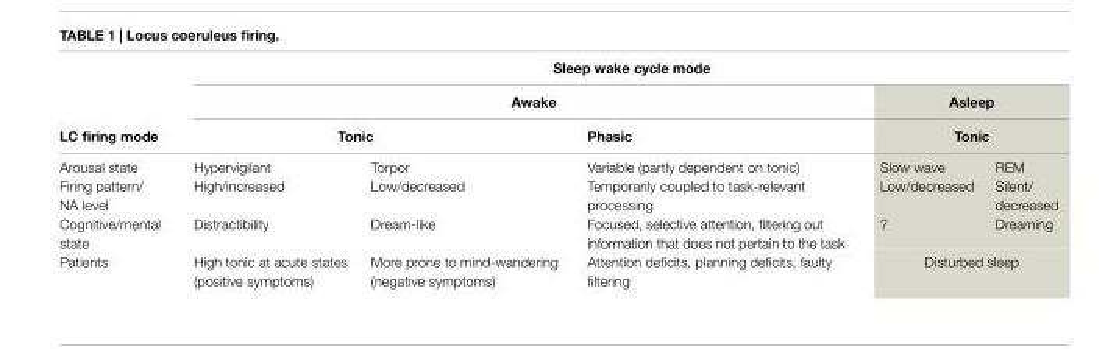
<table><thead><tr><td rowspan="4">lC firing mode Arousal state</td><td colspan="5">sleep wake cycle mode</td></tr><tr><td colspan="3">awake</td><td rowspan="2" colspan="2">asleep tonic</td></tr><tr><td colspan="2">tonic</td><td rowspan="2">phasic Variable (partly dependent on tonic)</td></tr><tr><td>Hypervigilant</td><td>Torpor</td><td>Slow wave</td><td>REM</td></tr></thead><tbody><tr><td>Firing pattern/ NA level</td><td>High/increased</td><td>Low/decreased</td><td>Temporarily coupled to task-relevant processing</td><td>Low/decreased</td><td>Silent/ decreased</td></tr><tr><td>Cognitive/mental state</td><td>Distractibility</td><td>Dream-like</td><td>Focused, selective attention, filtering out information that does not pertain to the task</td><td>?</td><td>Dreaming</td></tr><tr><td>Patients</td><td>High tonic at acute states (positive symptoms)</td><td>More prone to mind-wandering (negative symptoms)</td><td>Attention deficits, planning deficits, faulty filtering</td><td colspan="2">Disturbed sleep</td></tr></tbody></table>